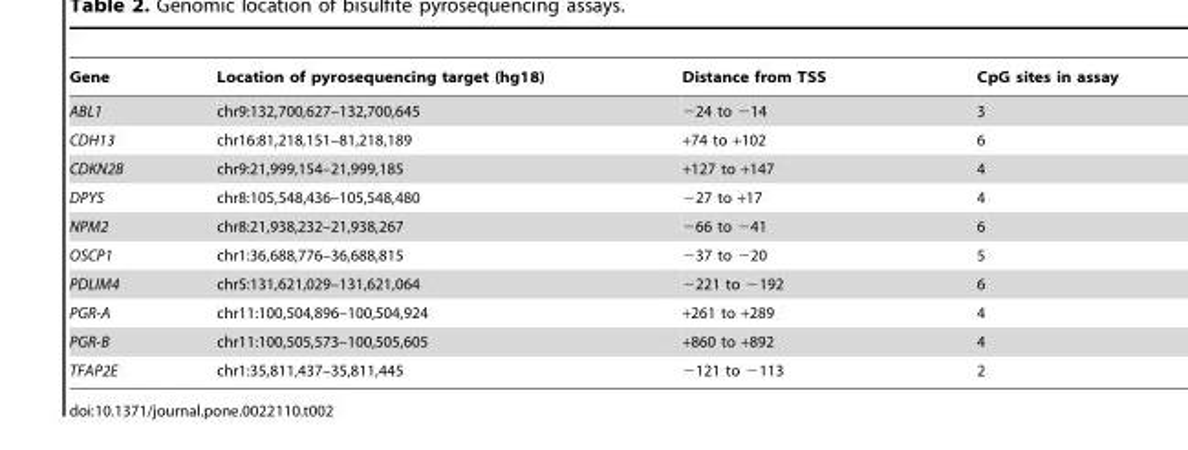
<table><thead><tr><td>Gene</td><td>Location of pyrosequencing target (hg18)</td><td>Distance from TSS</td><td>CpG sites in assay</td></tr></thead><tbody><tr><td>ABL1</td><td>chr9:132,700,627–132,700,645</td><td>−24 to −14</td><td>3</td></tr><tr><td>CDH13</td><td>chr16:81,218,151–81,218,189</td><td>+74 to +102</td><td>6</td></tr><tr><td>CDKN2B</td><td>chr9:21,999,154–21,999,185</td><td>+127 to +147</td><td>4</td></tr><tr><td>DPYS</td><td>chr8:105,548,436–105,548,480</td><td>−27 to +17</td><td>4</td></tr><tr><td>NPM2</td><td>chr8:21,938,232–21,938,267</td><td>−66 to −41</td><td>6</td></tr><tr><td>OSCP1</td><td>chr1:36,688,776–36,688,815</td><td>−37 to −20</td><td>5</td></tr><tr><td>PDLIM4</td><td>chr5:131,621,029–131,621,064</td><td>−221 to −192</td><td>6</td></tr><tr><td>PGR-A</td><td>chr11:100,504,896–100,504,924</td><td>+261 to +289</td><td>4</td></tr><tr><td>PGR-B</td><td>chr11:100,505,573–100,505,605</td><td>+860 to +892</td><td>4</td></tr><tr><td>TFAP2E</td><td>chr1:35,811,437–35,811,445</td><td>−121 to −113</td><td>2</td></tr></tbody></table>